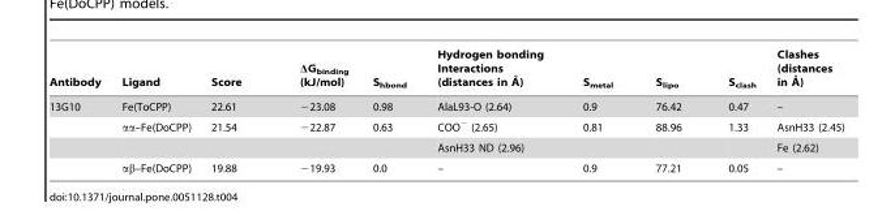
<table><thead><tr><td>Antibody</td><td>Ligand</td><td>Score</td><td>ΔG<sub>binding</sub> (kJ/mol)</td><td>S<sub>hbond</sub></td><td>Hydrogen bonding Interactions (distances in A˚ )</td><td>S<sub>metal</sub></td><td>S<sub>lipo</sub></td><td>S<sub>clash</sub></td><td>Clashes (distances in A˚ )</td></tr></thead><tbody><tr><td rowspan="4">13G10</td><td>Fe(ToCPP)</td><td>22.61</td><td>−23.08</td><td>0.98</td><td>AlaL93-O (2.64)</td><td>0.9</td><td>76.42</td><td>0.47</td><td>–</td></tr><tr><td>αα–Fe(DoCPP)</td><td>21.54</td><td>−22.87</td><td>0.63</td><td>COO<sup>−</sup> (2.65)</td><td>0.81</td><td>88.96</td><td>1.33</td><td>AsnH33 (2.45)</td></tr><tr><td></td><td></td><td></td><td></td><td>AsnH33 ND (2.96)</td><td></td><td></td><td></td><td>Fe (2.62)</td></tr><tr><td>αβ–Fe(DoCPP)</td><td>19.88</td><td>−19.93</td><td>0.0</td><td>–</td><td>0.9</td><td>77.21</td><td>0.05</td><td>–</td></tr></tbody></table>